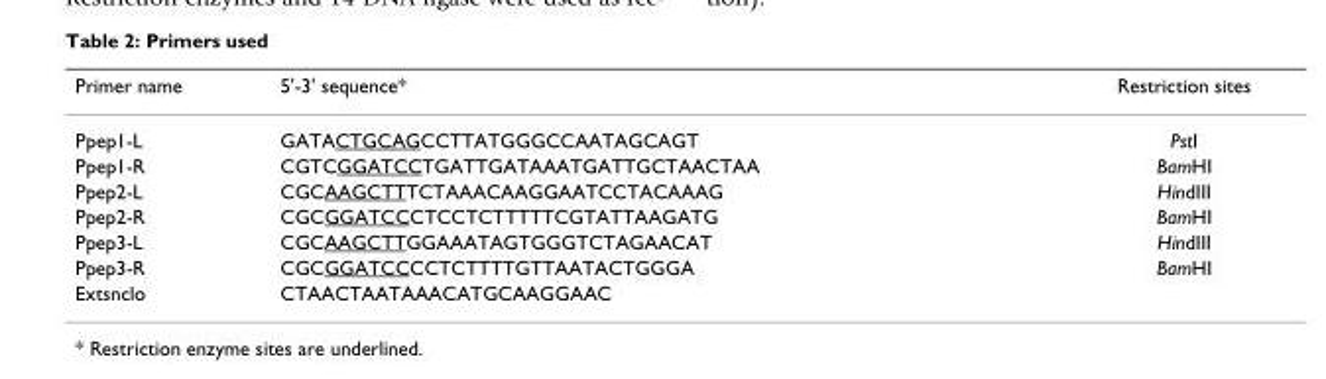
<table><thead><tr><td>Primer name</td><td>5&#x27;-3&#x27; sequence*</td><td>Restriction sites</td></tr></thead><tbody><tr><td>Ppep1-L</td><td>GATACTGCAGCCTTATGGGCCAATAGCAGT</td><td>PstI</td></tr><tr><td>Ppep1-R</td><td>CGTCGGATCCTGATTGATAAATGATTGCTAACTAA</td><td>BamHI</td></tr><tr><td>Ppep2-L</td><td>CGCAAGCTTTCTAAACAAGGAATCCTACAAAG</td><td>HindIII</td></tr><tr><td>Ppep2-R</td><td>CGCGGATCCCTCCTCTTTTTCGTATTAAGATG</td><td>BamHI</td></tr><tr><td>Ppep3-L</td><td>CGCAAGCTTGGAAATAGTGGGTCTAGAACAT</td><td>HindIII</td></tr><tr><td>Ppep3-R</td><td>CGCGGATCCCCTCTTTTGTTAATACTGGGA</td><td>BamHI</td></tr><tr><td>Extsnclo</td><td>CTAACTAATAAACATGCAAGGAAC</td><td></td></tr></tbody></table>